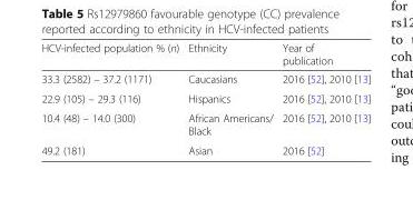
<table><thead><tr><td>HCV-infected population % (n)</td><td>Ethnicity</td><td>Year of publication</td></tr></thead><tbody><tr><td>33.3 (2582) – 37.2 (1171)</td><td>Caucasians</td><td>2016 [52], 2010 [13]</td></tr><tr><td>22.9 (105) – 29.3 (116)</td><td>Hispanics</td><td>2016 [52], 2010 [13]</td></tr><tr><td>10.4 (48) – 14.0 (300)</td><td>African Americans/ Black</td><td>2016 [52], 2010 [13]</td></tr><tr><td>49.2 (181)</td><td>Asian</td><td>2016 [52]</td></tr></tbody></table>